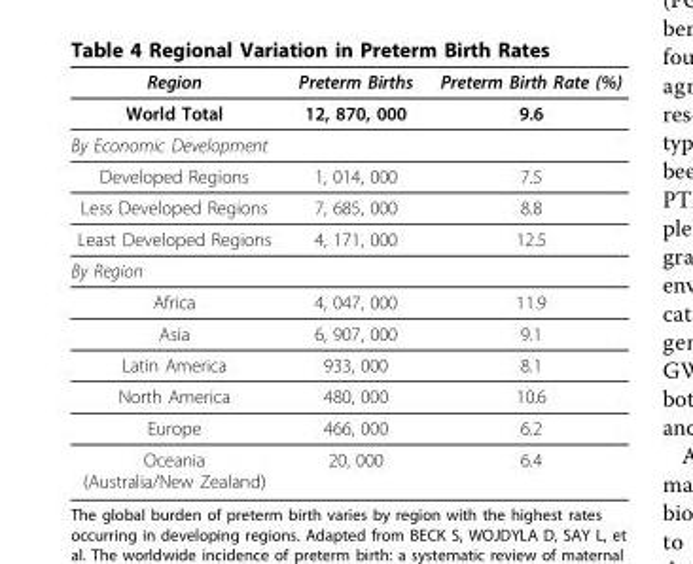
<table><thead><tr><td>Region</td><td>Preterm Births</td><td>Preterm Birth Rate (%)</td></tr></thead><tbody><tr><td>World Total</td><td>12, 870, 000</td><td>9.6</td></tr><tr><td colspan="3">By Economic Development</td></tr><tr><td>Developed Regions</td><td>1, 014, 000</td><td>7.5</td></tr><tr><td>Less Developed Regions</td><td>7, 685, 000</td><td>8.8</td></tr><tr><td>Least Developed Regions</td><td>4, 171, 000</td><td>12.5</td></tr><tr><td colspan="3">By Region</td></tr><tr><td>Africa</td><td>4, 047, 000</td><td>11.9</td></tr><tr><td>Asia</td><td>6, 907, 000</td><td>9.1</td></tr><tr><td>Latin America</td><td>933, 000</td><td>8.1</td></tr><tr><td>North America</td><td>480, 000</td><td>10.6</td></tr><tr><td>Europe</td><td>466, 000</td><td>6.2</td></tr><tr><td>Oceania (Australia/New Zealand)</td><td>20, 000</td><td>6.4</td></tr></tbody></table>